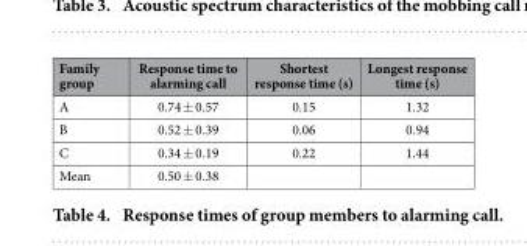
<table><thead><tr><td>Family group</td><td>Response time to alarming call</td><td>Shortest response time (s)</td><td>Longest response time (s)</td></tr></thead><tbody><tr><td>A</td><td>0.74 ± 0.57</td><td>0.15</td><td>1.32</td></tr><tr><td>B</td><td>0.52 ± 0.39</td><td>0.06</td><td>0.94</td></tr><tr><td>C</td><td>0.34 ± 0.19</td><td>0.22</td><td>1.44</td></tr><tr><td>Mean</td><td>0.50 ± 0.38</td><td></td><td></td></tr></tbody></table>